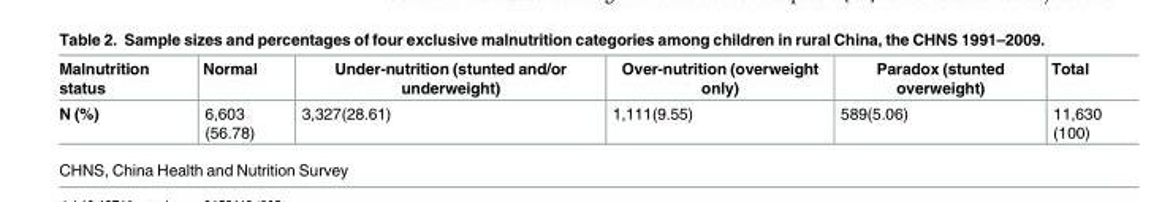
<table><thead><tr><td>Malnutrition status</td><td>Normal</td><td>Under-nutrition (stunted and/or underweight)</td><td>Over-nutrition (overweight only)</td><td>Paradox (stunted overweight)</td><td>Total</td></tr></thead><tbody><tr><td>N (%)</td><td>6,603 (56.78)</td><td>3,327(28.61)</td><td>1,111(9.55)</td><td>589(5.06)</td><td>11,630 (100)</td></tr></tbody></table>